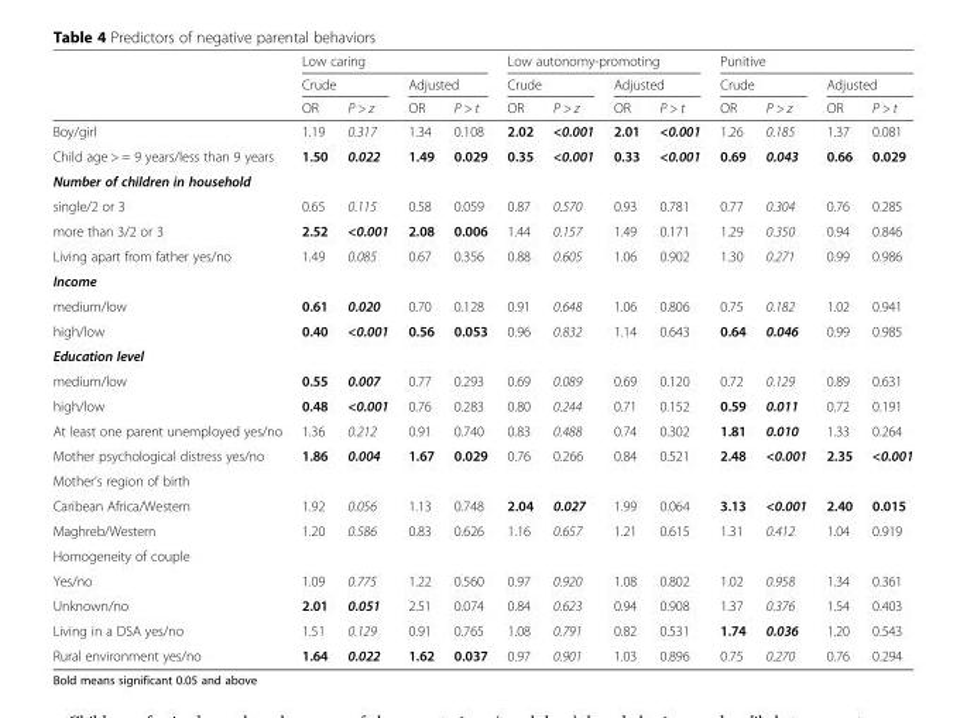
<table><thead><tr><td rowspan="3"></td><td colspan="4">Low caring</td><td colspan="4">Low autonomy-promoting</td><td colspan="4">Punitive</td></tr><tr><td colspan="2">Crude</td><td colspan="2">Adjusted</td><td colspan="2">Crude</td><td colspan="2">Adjusted</td><td colspan="2">Crude</td><td colspan="2">Adjusted</td></tr><tr><td>OR</td><td>P &gt; z</td><td>OR</td><td>P &gt; t</td><td>OR</td><td>P &gt; z</td><td>OR</td><td>P &gt; t</td><td>OR</td><td>P &gt; z</td><td>OR</td><td>P &gt; t</td></tr></thead><tbody><tr><td>Boy/girl</td><td>1.19</td><td>0.317</td><td>1.34</td><td>0.108</td><td>2.02</td><td>&lt;0.001</td><td>2.01</td><td>&lt;0.001</td><td>1.26</td><td>0.185</td><td>1.37</td><td>0.081</td></tr><tr><td>Child age &gt; = 9 years/less than 9 years</td><td>1.50</td><td>0.022</td><td>1.49</td><td>0.029</td><td>0.35</td><td>&lt;0.001</td><td>0.33</td><td>&lt;0.001</td><td>0.69</td><td>0.043</td><td>0.66</td><td>0.029</td></tr><tr><td colspan="13">Number of children in household</td></tr><tr><td>single/2 or 3</td><td>0.65</td><td>0.115</td><td>0.58</td><td>0.059</td><td>0.87</td><td>0.570</td><td>0.93</td><td>0.781</td><td>0.77</td><td>0.304</td><td>0.76</td><td>0.285</td></tr><tr><td>more than 3/2 or 3</td><td>2.52</td><td>&lt;0.001</td><td>2.08</td><td>0.006</td><td>1.44</td><td>0.157</td><td>1.49</td><td>0.171</td><td>1.29</td><td>0.350</td><td>0.94</td><td>0.846</td></tr><tr><td>Living apart from father yes/no</td><td>1.49</td><td>0.085</td><td>0.67</td><td>0.356</td><td>0.88</td><td>0.605</td><td>1.06</td><td>0.902</td><td>1.30</td><td>0.271</td><td>0.99</td><td>0.986</td></tr><tr><td colspan="13">Income</td></tr><tr><td>medium/low</td><td>0.61</td><td>0.020</td><td>0.70</td><td>0.128</td><td>0.91</td><td>0.648</td><td>1.06</td><td>0.806</td><td>0.75</td><td>0.182</td><td>1.02</td><td>0.941</td></tr><tr><td>high/low</td><td>0.40</td><td>&lt;0.001</td><td>0.56</td><td>0.053</td><td>0.96</td><td>0.832</td><td>1.14</td><td>0.643</td><td>0.64</td><td>0.046</td><td>0.99</td><td>0.985</td></tr><tr><td colspan="13">Education level</td></tr><tr><td>medium/low</td><td>0.55</td><td>0.007</td><td>0.77</td><td>0.293</td><td>0.69</td><td>0.089</td><td>0.69</td><td>0.120</td><td>0.72</td><td>0.129</td><td>0.89</td><td>0.631</td></tr><tr><td>high/low</td><td>0.48</td><td>&lt;0.001</td><td>0.76</td><td>0.283</td><td>0.80</td><td>0.244</td><td>0.71</td><td>0.152</td><td>0.59</td><td>0.011</td><td>0.72</td><td>0.191</td></tr><tr><td>At least one parent unemployed yes/no</td><td>1.36</td><td>0.212</td><td>0.91</td><td>0.740</td><td>0.83</td><td>0.488</td><td>0.74</td><td>0.302</td><td>1.81</td><td>0.010</td><td>1.33</td><td>0.264</td></tr><tr><td>Mother psychological distress yes/no</td><td>1.86</td><td>0.004</td><td>1.67</td><td>0.029</td><td>0.76</td><td>0.266</td><td>0.84</td><td>0.521</td><td>2.48</td><td>&lt;0.001</td><td>2.35</td><td>&lt;0.001</td></tr><tr><td colspan="13">Mother’s region of birth</td></tr><tr><td>Caribean Africa/Western</td><td>1.92</td><td>0.056</td><td>1.13</td><td>0.748</td><td>2.04</td><td>0.027</td><td>1.99</td><td>0.064</td><td>3.13</td><td>&lt;0.001</td><td>2.40</td><td>0.015</td></tr><tr><td>Maghreb/Western</td><td>1.20</td><td>0.586</td><td>0.83</td><td>0.626</td><td>1.16</td><td>0.657</td><td>1.21</td><td>0.615</td><td>1.31</td><td>0.412</td><td>1.04</td><td>0.919</td></tr><tr><td colspan="13">Homogeneity of couple</td></tr><tr><td>Yes/no</td><td>1.09</td><td>0.775</td><td>1.22</td><td>0.560</td><td>0.97</td><td>0.920</td><td>1.08</td><td>0.802</td><td>1.02</td><td>0.958</td><td>1.34</td><td>0.361</td></tr><tr><td>Unknown/no</td><td>2.01</td><td>0.051</td><td>2.51</td><td>0.074</td><td>0.84</td><td>0.623</td><td>0.94</td><td>0.908</td><td>1.37</td><td>0.376</td><td>1.54</td><td>0.403</td></tr><tr><td>Living in a DSA yes/no</td><td>1.51</td><td>0.129</td><td>0.91</td><td>0.765</td><td>1.08</td><td>0.791</td><td>0.82</td><td>0.531</td><td>1.74</td><td>0.036</td><td>1.20</td><td>0.543</td></tr><tr><td>Rural environment yes/no</td><td>1.64</td><td>0.022</td><td>1.62</td><td>0.037</td><td>0.97</td><td>0.901</td><td>1.03</td><td>0.896</td><td>0.75</td><td>0.270</td><td>0.76</td><td>0.294</td></tr></tbody></table>